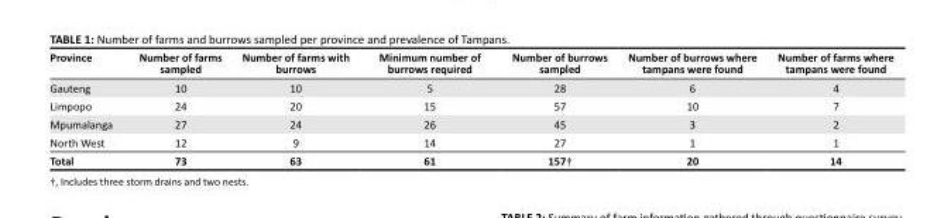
<table><thead><tr><td>Province</td><td>Number of farms sampled</td><td>Number of farms with burrows</td><td>Minimum number of burrows required</td><td>Number of burrows sampled</td><td>Number of burrows where tampans were found</td><td>Number of farms where tampans were found</td></tr></thead><tbody><tr><td>Gauteng</td><td>10</td><td>10</td><td>5</td><td>28</td><td>6</td><td>4</td></tr><tr><td>Limpopo</td><td>24</td><td>20</td><td>15</td><td>57</td><td>10</td><td>7</td></tr><tr><td>Mpumalanga</td><td>27</td><td>24</td><td>26</td><td>45</td><td>3</td><td>2</td></tr><tr><td>North West</td><td>12</td><td>9</td><td>14</td><td>27</td><td>1</td><td>1</td></tr><tr><td>Total</td><td>73</td><td>63</td><td>61</td><td>157†</td><td>20</td><td>14</td></tr></tbody></table>